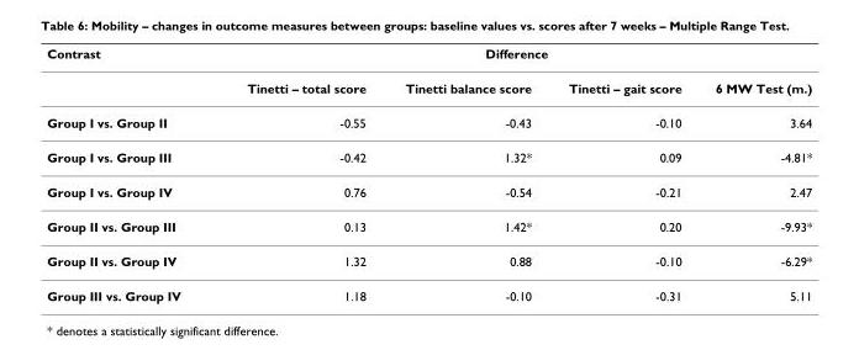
<table><thead><tr><td rowspan="2">Contrast</td><td colspan="4">Difference</td></tr><tr><td>Tinetti – total score</td><td>Tinetti balance score</td><td>Tinetti – gait score</td><td>6 MW Test (m.)</td></tr></thead><tbody><tr><td>Group I vs. Group II</td><td>-0.55</td><td>-0.43</td><td>-0.10</td><td>3.64</td></tr><tr><td>Group I vs. Group III</td><td>-0.42</td><td>1.32*</td><td>0.09</td><td>-4.81*</td></tr><tr><td>Group I vs. Group IV</td><td>0.76</td><td>-0.54</td><td>-0.21</td><td>2.47</td></tr><tr><td>Group II vs. Group III</td><td>0.13</td><td>1.42*</td><td>0.20</td><td>-9.93*</td></tr><tr><td>Group II vs. Group IV</td><td>1.32</td><td>0.88</td><td>-0.10</td><td>-6.29*</td></tr><tr><td>Group III vs. Group IV</td><td>1.18</td><td>-0.10</td><td>-0.31</td><td>5.11</td></tr></tbody></table>